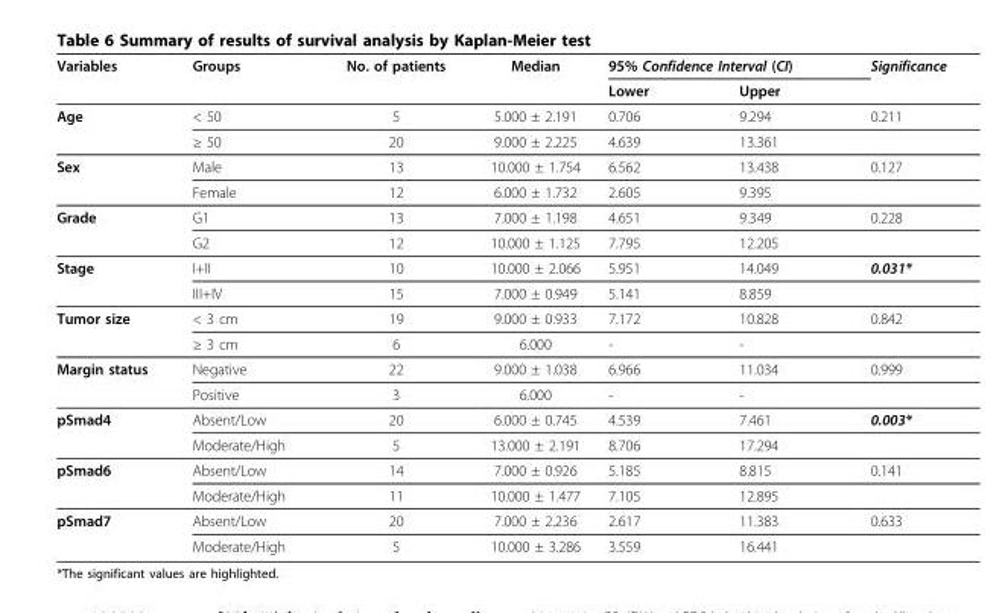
<table><thead><tr><td rowspan="2">Variables</td><td rowspan="2">Groups</td><td rowspan="2">No. of patients</td><td rowspan="2">Median</td><td colspan="2">95% Confidence Interval (CI)</td><td rowspan="2">Significance</td></tr><tr><td>Lower</td><td>Upper</td></tr></thead><tbody><tr><td rowspan="2">Age</td><td>&lt; 50</td><td>5</td><td>5.000 ± 2.191</td><td>0.706</td><td>9.294</td><td>0.211</td></tr><tr><td>≥ 50</td><td>20</td><td>9.000 ± 2.225</td><td>4.639</td><td>13.361</td><td></td></tr><tr><td rowspan="2">Sex</td><td>Male</td><td>13</td><td>10.000 ± 1.754</td><td>6.562</td><td>13.438</td><td>0.127</td></tr><tr><td>Female</td><td>12</td><td>6.000 ± 1.732</td><td>2.605</td><td>9.395</td><td></td></tr><tr><td rowspan="2">Grade</td><td>G1</td><td>13</td><td>7.000 ± 1.198</td><td>4.651</td><td>9.349</td><td>0.228</td></tr><tr><td>G2</td><td>12</td><td>10.000 ± 1.125</td><td>7.795</td><td>12.205</td><td></td></tr><tr><td rowspan="2">Stage</td><td>I+II</td><td>10</td><td>10.000 ± 2.066</td><td>5.951</td><td>14.049</td><td>0.031*</td></tr><tr><td>III+IV</td><td>15</td><td>7.000 ± 0.949</td><td>5.141</td><td>8.859</td><td></td></tr><tr><td rowspan="2">Tumor size</td><td>&lt; 3 cm</td><td>19</td><td>9.000 ± 0.933</td><td>7.172</td><td>10.828</td><td>0.842</td></tr><tr><td>≥ 3 cm</td><td>6</td><td>6.000</td><td>-</td><td>-</td><td></td></tr><tr><td rowspan="2">Margin status</td><td>Negative</td><td>22</td><td>9.000 ± 1.038</td><td>6.966</td><td>11.034</td><td>0.999</td></tr><tr><td>Positive</td><td>3</td><td>6.000</td><td>-</td><td>-</td><td></td></tr><tr><td rowspan="2">pSmad4</td><td>Absent/Low</td><td>20</td><td>6.000 ± 0.745</td><td>4.539</td><td>7.461</td><td>0.003*</td></tr><tr><td>Moderate/High</td><td>5</td><td>13.000 ± 2.191</td><td>8.706</td><td>17.294</td><td></td></tr><tr><td rowspan="2">pSmad6</td><td>Absent/Low</td><td>14</td><td>7.000 ± 0.926</td><td>5.185</td><td>8.815</td><td>0.141</td></tr><tr><td>Moderate/High</td><td>11</td><td>10.000 ± 1.477</td><td>7.105</td><td>12.895</td><td></td></tr><tr><td rowspan="2">pSmad7</td><td>Absent/Low</td><td>20</td><td>7.000 ± 2.236</td><td>2.617</td><td>11.383</td><td>0.633</td></tr><tr><td>Moderate/High</td><td>5</td><td>10.000 ± 3.286</td><td>3.559</td><td>16.441</td><td></td></tr></tbody></table>